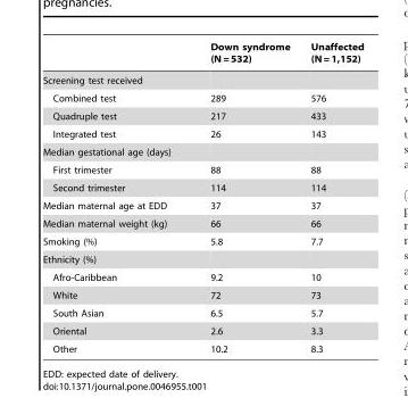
<table><thead><tr><td></td><td>Down syndrome (N = 532)</td><td>Unaffected (N = 1,152)</td></tr></thead><tbody><tr><td colspan="3">Screening test received</td></tr><tr><td>Combined test</td><td>289</td><td>576</td></tr><tr><td>Quadruple test</td><td>217</td><td>433</td></tr><tr><td>Integrated test</td><td>26</td><td>143</td></tr><tr><td colspan="3">Median gestational age (days)</td></tr><tr><td>First trimester</td><td>88</td><td>88</td></tr><tr><td>Second trimester</td><td>114</td><td>114</td></tr><tr><td>Median maternal age at EDD</td><td>37</td><td>37</td></tr><tr><td>Median maternal weight (kg)</td><td>66</td><td>66</td></tr><tr><td>Smoking (%)</td><td>5.8</td><td>7.7</td></tr><tr><td colspan="3">Ethnicity (%)</td></tr><tr><td>Afro-Caribbean</td><td>9.2</td><td>10</td></tr><tr><td>White</td><td>72</td><td>73</td></tr><tr><td>South Asian</td><td>6.5</td><td>5.7</td></tr><tr><td>Oriental</td><td>2.6</td><td>3.3</td></tr><tr><td>Other</td><td>10.2</td><td>8.3</td></tr></tbody></table>